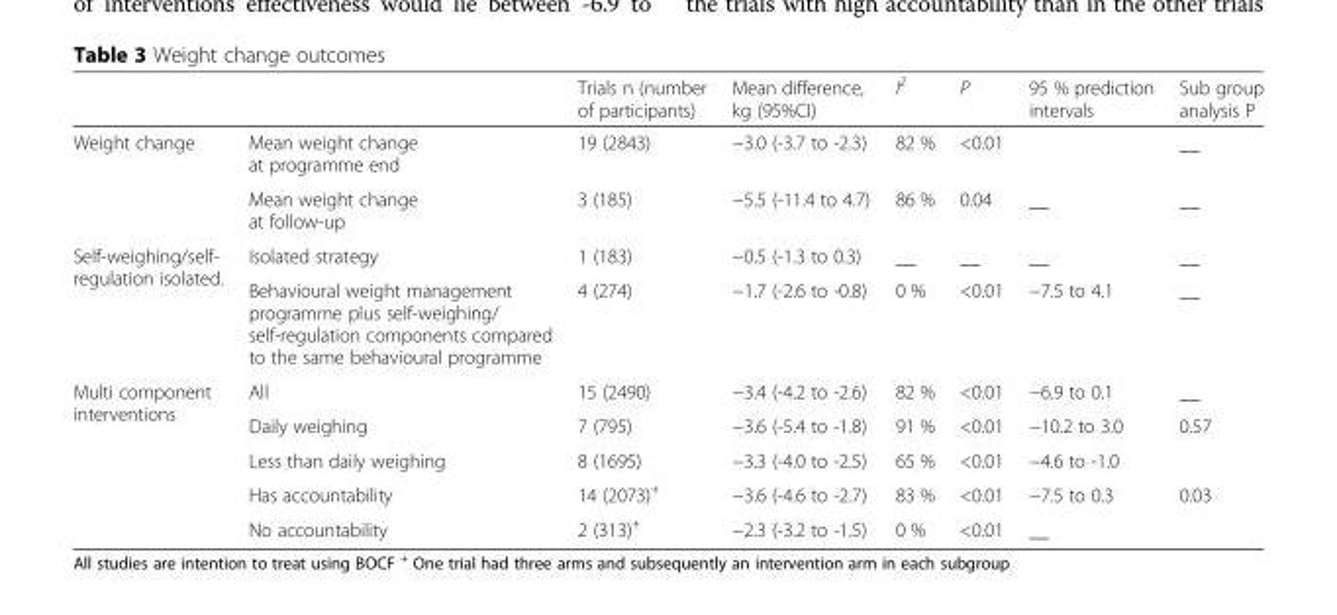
<table><thead><tr><td></td><td></td><td>Trials n (number of participants)</td><td>Mean difference, kg (95%CI)</td><td>I<sup>2</sup></td><td>P</td><td>95 % prediction intervals</td><td>Sub group analysis P</td></tr></thead><tbody><tr><td rowspan="2">Weight change</td><td>Mean weight change at programme end</td><td>19 (2843)</td><td>−3.0 (-3.7 to -2.3)</td><td>82 %</td><td>&lt;0.01</td><td></td><td>__</td></tr><tr><td>Mean weight change at follow-up</td><td>3 (185)</td><td>−5.5 (-11.4 to 4.7)</td><td>86 %</td><td>0.04</td><td>__</td><td>__</td></tr><tr><td rowspan="2">Self-weighing/self- regulation isolated.</td><td>Isolated strategy</td><td>1 (183)</td><td>−0.5 (-1.3 to 0.3)</td><td>__</td><td>__</td><td>__</td><td>__</td></tr><tr><td>Behavioural weight management programme plus self-weighing/ self-regulation components compared to the same behavioural programme</td><td>4 (274)</td><td>−1.7 (-2.6 to -0.8)</td><td>0 %</td><td>&lt;0.01</td><td>−7.5 to 4.1</td><td>__</td></tr><tr><td rowspan="5">Multi component interventions</td><td>All</td><td>15 (2490)</td><td>−3.4 (-4.2 to -2.6)</td><td>82 %</td><td>&lt;0.01</td><td>−6.9 to 0.1</td><td>__</td></tr><tr><td>Daily weighing</td><td>7 (795)</td><td>−3.6 (-5.4 to -1.8)</td><td>91 %</td><td>&lt;0.01</td><td>−10.2 to 3.0</td><td rowspan="2">0.57</td></tr><tr><td>Less than daily weighing</td><td>8 (1695)</td><td>−3.3 (-4.0 to -2.5)</td><td>65 %</td><td>&lt;0.01</td><td>−4.6 to -1.0</td></tr><tr><td>Has accountability</td><td>14 (2073)<sup>+</sup></td><td>−3.6 (-4.6 to -2.7)</td><td>83 %</td><td>&lt;0.01</td><td>−7.5 to 0.3</td><td rowspan="2">0.03</td></tr><tr><td>No accountability</td><td>2 (313)<sup>+</sup></td><td>−2.3 (-3.2 to -1.5)</td><td>0 %</td><td>&lt;0.01</td><td>__</td></tr></tbody></table>